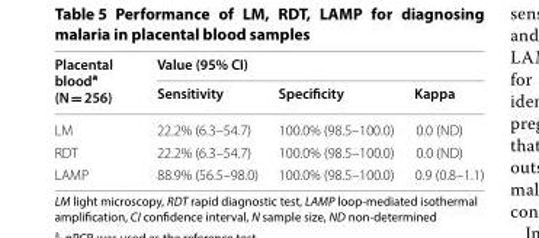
<table><thead><tr><td rowspan="2">Placental blood<sup>a</sup> (N = 256)</td><td colspan="3">Value (95% CI)</td></tr><tr><td>Sensitivity</td><td>Specificity</td><td>Kappa</td></tr></thead><tbody><tr><td>LM</td><td>22.2% (6.3–54.7)</td><td>100.0% (98.5–100.0)</td><td>0.0 (ND)</td></tr><tr><td>RDT</td><td>22.2% (6.3–54.7)</td><td>100.0% (98.5–100.0)</td><td>0.0 (ND)</td></tr><tr><td>LAMP</td><td>88.9% (56.5–98.0)</td><td>100.0% (98.5–100.0)</td><td>0.9 (0.8–1.1)</td></tr></tbody></table>